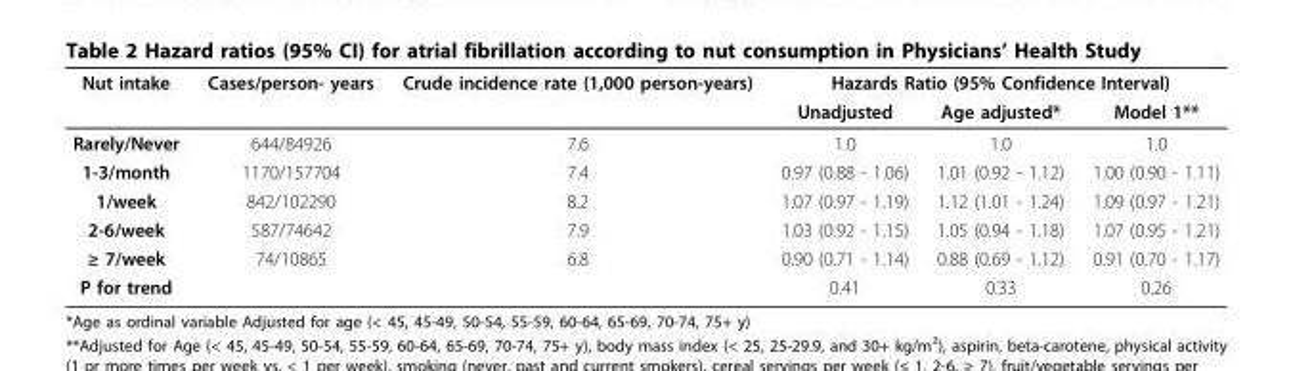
<table><thead><tr><td rowspan="2">Nut intake</td><td rowspan="2">Cases/person- years</td><td rowspan="2">Crude incidence rate (1,000 person-years)</td><td colspan="3">Hazards Ratio (95% Confidence Interval)</td></tr><tr><td>Unadjusted</td><td>Age adjusted*</td><td>Model 1**</td></tr></thead><tbody><tr><td>Rarely/Never</td><td>644/84926</td><td>7.6</td><td>1.0</td><td>1.0</td><td>1.0</td></tr><tr><td>1-3/month</td><td>1170/157704</td><td>7.4</td><td>0.97 (0.88 - 1.06)</td><td>1.01 (0.92 - 1.12)</td><td>1.00 (0.90 - 1.11)</td></tr><tr><td>1/week</td><td>842/102290</td><td>8.2</td><td>1.07 (0.97 - 1.19)</td><td>1.12 (1.01 - 1.24)</td><td>1.09 (0.97 - 1.21)</td></tr><tr><td>2-6/week</td><td>587/74642</td><td>7.9</td><td>1.03 (0.92 - 1.15)</td><td>1.05 (0.94 - 1.18)</td><td>1.07 (0.95 - 1.21)</td></tr><tr><td>≥ 7/week</td><td>74/10865</td><td>6.8</td><td>0.90 (0.71 - 1.14)</td><td>0.88 (0.69 - 1.12)</td><td>0.91 (0.70 - 1.17)</td></tr><tr><td>P for trend</td><td></td><td></td><td>0.41</td><td>0.33</td><td>0.26</td></tr></tbody></table>